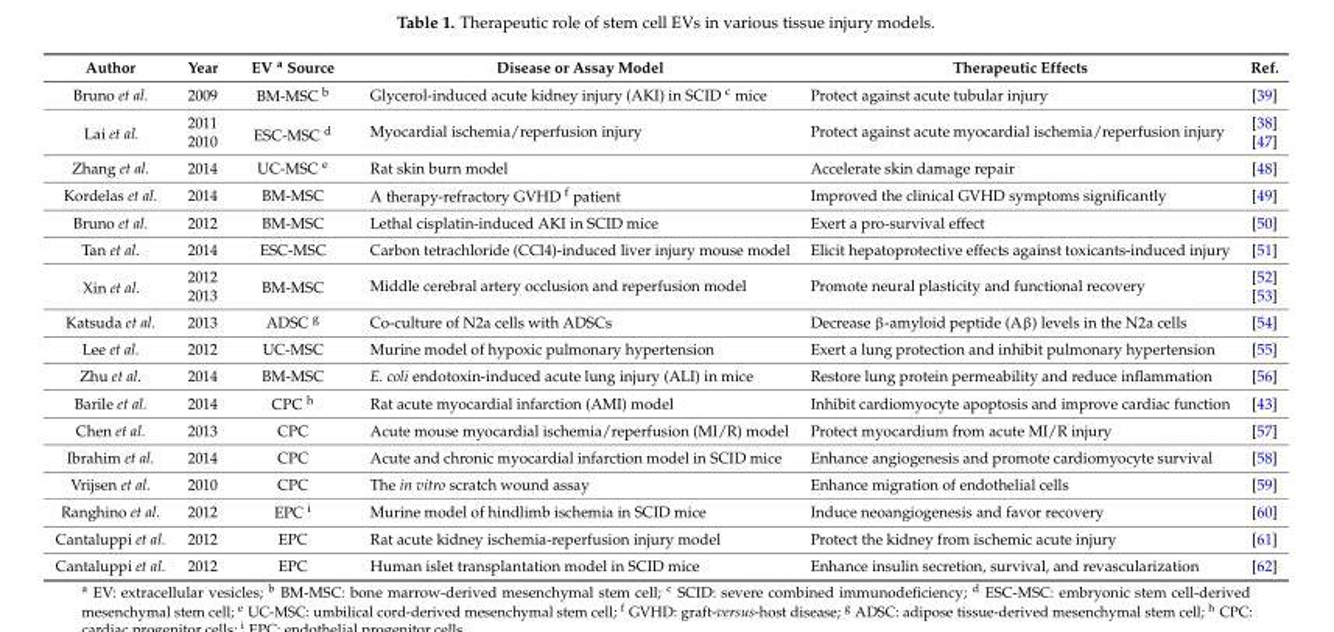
<table><thead><tr><td>Author</td><td>Year</td><td>EV <sup>a</sup> Source</td><td>Disease or Assay Model</td><td>Therapeutic Effects</td><td>Ref.</td></tr></thead><tbody><tr><td>Bruno et al.</td><td>2009</td><td>BM-MSC <sup>b</sup></td><td>Glycerol-induced acute kidney injury (AKI) in SCID <sup>c</sup> mice</td><td>Protect against acute tubular injury</td><td>[39]</td></tr><tr><td rowspan="2">Lai et al.</td><td>2011</td><td rowspan="2">ESC-MSC <sup>d</sup></td><td rowspan="2">Myocardial ischemia/reperfusion injury</td><td rowspan="2">Protect against acute myocardial ischemia/reperfusion injury</td><td>[38]</td></tr><tr><td>2010</td><td>[47]</td></tr><tr><td>Zhang et al.</td><td>2014</td><td>UC-MSC <sup>e</sup></td><td>Rat skin burn model</td><td>Accelerate skin damage repair</td><td>[48]</td></tr><tr><td>Kordelas et al.</td><td>2014</td><td>BM-MSC</td><td>A therapy-refractory GVHD <sup>f</sup> patient</td><td>Improved the clinical GVHD symptoms significantly</td><td>[49]</td></tr><tr><td>Bruno et al.</td><td>2012</td><td>BM-MSC</td><td>Lethal cisplatin-induced AKI in SCID mice</td><td>Exert a pro-survival effect</td><td>[50]</td></tr><tr><td>Tan et al.</td><td>2014</td><td>ESC-MSC</td><td>Carbon tetrachloride (CCl4)-induced liver injury mouse model</td><td>Elicit hepatoprotective effects against toxicants-induced injury</td><td>[51]</td></tr><tr><td rowspan="2">Xin et al.</td><td>2012</td><td rowspan="2">BM-MSC</td><td rowspan="2">Middle cerebral artery occlusion and reperfusion model</td><td rowspan="2">Promote neural plasticity and functional recovery</td><td>[52]</td></tr><tr><td>2013</td><td>[53]</td></tr><tr><td>Katsuda et al.</td><td>2013</td><td>ADSC <sup>g</sup></td><td>Co-culture of N2a cells with ADSCs</td><td>Decrease β-amyloid peptide (Aβ) levels in the N2a cells</td><td>[54]</td></tr><tr><td>Lee et al.</td><td>2012</td><td>UC-MSC</td><td>Murine model of hypoxic pulmonary hypertension</td><td>Exert a lung protection and inhibit pulmonary hypertension</td><td>[55]</td></tr><tr><td>Zhu et al.</td><td>2014</td><td>BM-MSC</td><td>E. coli endotoxin-induced acute lung injury (ALI) in mice</td><td>Restore lung protein permeability and reduce inflammation</td><td>[56]</td></tr><tr><td>Barile et al.</td><td>2014</td><td>CPC <sup>h</sup></td><td>Rat acute myocardial infarction (AMI) model</td><td>Inhibit cardiomyocyte apoptosis and improve cardiac function</td><td>[43]</td></tr><tr><td>Chen et al.</td><td>2013</td><td>CPC</td><td>Acute mouse myocardial ischemia/reperfusion (MI/R) model</td><td>Protect myocardium from acute MI/R injury</td><td>[57]</td></tr><tr><td>Ibrahim et al.</td><td>2014</td><td>CPC</td><td>Acute and chronic myocardial infarction model in SCID mice</td><td>Enhance angiogenesis and promote cardiomyocyte survival</td><td>[58]</td></tr><tr><td>Vrijsen et al.</td><td>2010</td><td>CPC</td><td>The in vitro scratch wound assay</td><td>Enhance migration of endothelial cells</td><td>[59]</td></tr><tr><td>Ranghino et al.</td><td>2012</td><td>EPC <sup>i</sup></td><td>Murine model of hindlimb ischemia in SCID mice</td><td>Induce neoangiogenesis and favor recovery</td><td>[60]</td></tr><tr><td>Cantaluppi et al.</td><td>2012</td><td>EPC</td><td>Rat acute kidney ischemia-reperfusion injury model</td><td>Protect the kidney from ischemic acute injury</td><td>[61]</td></tr><tr><td>Cantaluppi et al.</td><td>2012</td><td>EPC</td><td>Human islet transplantation model in SCID mice</td><td>Enhance insulin secretion, survival, and revascularization</td><td>[62]</td></tr></tbody></table>